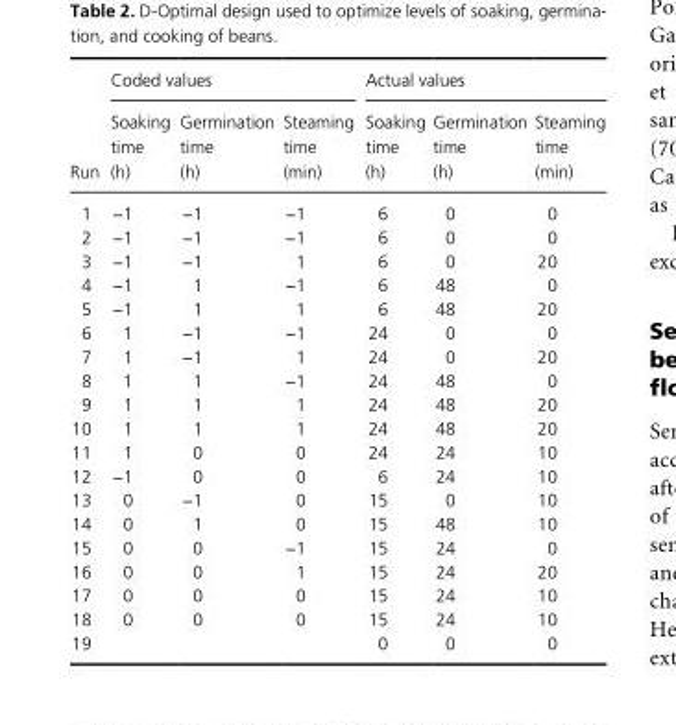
<table><thead><tr><td rowspan="2">Run</td><td colspan="3">Coded values</td><td colspan="3">Actual values</td></tr><tr><td>Soaking time (h)</td><td>Germination time (h)</td><td>Steaming time (min)</td><td>Soaking time (h)</td><td>Germination time (h)</td><td>Steaming time (min)</td></tr></thead><tbody><tr><td>1</td><td>−1</td><td>−1</td><td>−1</td><td>6</td><td>0</td><td>0</td></tr><tr><td>2</td><td>−1</td><td>−1</td><td>−1</td><td>6</td><td>0</td><td>0</td></tr><tr><td>3</td><td>−1</td><td>−1</td><td>1</td><td>6</td><td>0</td><td>20</td></tr><tr><td>4</td><td>−1</td><td>1</td><td>−1</td><td>6</td><td>48</td><td>0</td></tr><tr><td>5</td><td>−1</td><td>1</td><td>1</td><td>6</td><td>48</td><td>20</td></tr><tr><td>6</td><td>1</td><td>−1</td><td>−1</td><td>24</td><td>0</td><td>0</td></tr><tr><td>7</td><td>1</td><td>−1</td><td>1</td><td>24</td><td>0</td><td>20</td></tr><tr><td>8</td><td>1</td><td>1</td><td>−1</td><td>24</td><td>48</td><td>0</td></tr><tr><td>9</td><td>1</td><td>1</td><td>1</td><td>24</td><td>48</td><td>20</td></tr><tr><td>10</td><td>1</td><td>1</td><td>1</td><td>24</td><td>48</td><td>20</td></tr><tr><td>11</td><td>1</td><td>0</td><td>0</td><td>24</td><td>24</td><td>10</td></tr><tr><td>12</td><td>−1</td><td>0</td><td>0</td><td>6</td><td>24</td><td>10</td></tr><tr><td>13</td><td>0</td><td>−1</td><td>0</td><td>15</td><td>0</td><td>10</td></tr><tr><td>14</td><td>0</td><td>1</td><td>0</td><td>15</td><td>48</td><td>10</td></tr><tr><td>15</td><td>0</td><td>0</td><td>−1</td><td>15</td><td>24</td><td>0</td></tr><tr><td>16</td><td>0</td><td>0</td><td>1</td><td>15</td><td>24</td><td>20</td></tr><tr><td>17</td><td>0</td><td>0</td><td>0</td><td>15</td><td>24</td><td>10</td></tr><tr><td>18</td><td>0</td><td>0</td><td>0</td><td>15</td><td>24</td><td>10</td></tr><tr><td>19</td><td></td><td></td><td></td><td>0</td><td>0</td><td>0</td></tr></tbody></table>